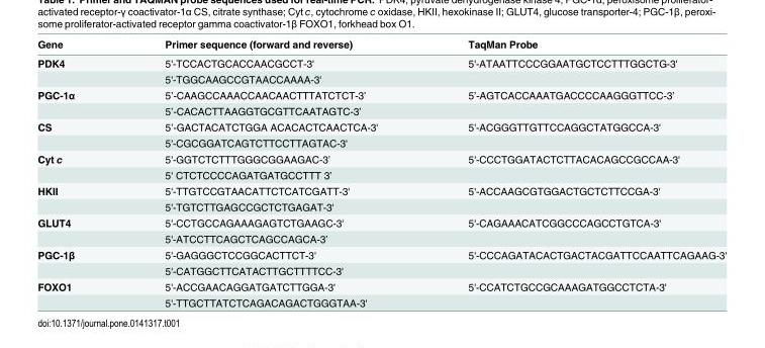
<table><thead><tr><td>Gene</td><td>Primer sequence (forward and reverse)</td><td>TaqMan Probe</td></tr></thead><tbody><tr><td rowspan="2">PDK4</td><td>5&#x27;-TCCACTGCACCAACGCCT-3&#x27;</td><td>5&#x27;-ATAATTCCCGGAATGCTCCTTTGGCTG-3&#x27;</td></tr><tr><td>5&#x27;-TGGCAAGCCGTAACCAAAA-3&#x27;</td><td></td></tr><tr><td rowspan="2">PGC-1α</td><td>5’-CAAGCCAAACCAACAACTTTATCTCT-3’</td><td>5’-AGTCACCAAATGACCCCAAGGGTTCC-3’</td></tr><tr><td>5’-CACACTTAAGGTGCGTTCAATAGTC-3’</td><td></td></tr><tr><td rowspan="2">CS</td><td>5’-GACTACATCTGGA ACACACTCAACTCA-3&#x27;</td><td>5&#x27;-ACGGGTTGTTCCAGGCTATGGCCA-3&#x27;</td></tr><tr><td>5&#x27;-CGCGGATCAGTCTTCCTTAGTAC-3&#x27;</td><td></td></tr><tr><td rowspan="2">Cyt c</td><td>5&#x27;-GGTCTCTTTGGGCGGAAGAC-3’</td><td>5&#x27;-CCCTGGATACTCTTACACAGCCGCCAA-3&#x27;</td></tr><tr><td>5&#x27; CTCTCCCCAGATGATGCCTTT 3’</td><td></td></tr><tr><td rowspan="2">HKII</td><td>5&#x27;-TTGTCCGTAACATTCTCATCGATT-3&#x27;</td><td>5&#x27;-ACCAAGCGTGGACTGCTCTTCCGA-3&#x27;</td></tr><tr><td>5&#x27;-TGTCTTGAGCCGCTCTGAGAT-3&#x27;</td><td></td></tr><tr><td rowspan="2">GLUT4</td><td>5&#x27;-CCTGCCAGAAAGAGTCTGAAGC-3&#x27;</td><td>5&#x27;-CAGAAACATCGGCCCAGCCTGTCA-3&#x27;</td></tr><tr><td>5&#x27;-ATCCTTCAGCTCAGCCAGCA-3’</td><td></td></tr><tr><td rowspan="2">PGC-1β</td><td>5&#x27;-GAGGGCTCCGGCACTTCT-3&#x27;</td><td>5&#x27;-CCCAGATACACTGACTACGATTCCAATTCAGAAG-3&#x27;</td></tr><tr><td>5&#x27;-CATGGCTTCATACTTGCTTTTCC-3&#x27;</td><td></td></tr><tr><td rowspan="2">FOXO1</td><td>5&#x27;-ACCGAACAGGATGATCTTGGA-3&#x27;</td><td>5&#x27;-CCATCTGCCGCAAAGATGGCCTCTA-3&#x27;</td></tr><tr><td>5&#x27;-TTGCTTATCTCAGACAGACTGGGTAA-3&#x27;</td><td></td></tr></tbody></table>